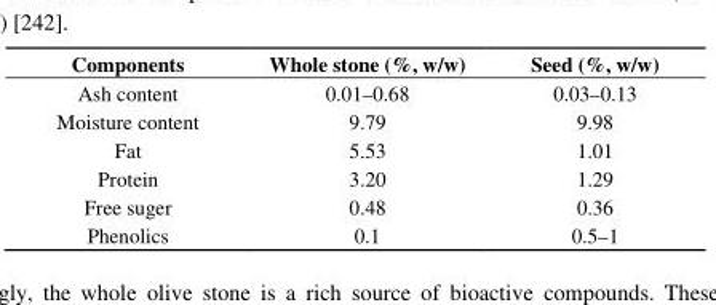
<table><thead><tr><td>Components</td><td>Whole stone (%, w/w)</td><td>Seed (%, w/w)</td></tr></thead><tbody><tr><td>Ash content</td><td>0.01–0.68</td><td>0.03–0.13</td></tr><tr><td>Moisture content</td><td>9.79</td><td>9.98</td></tr><tr><td>Fat</td><td>5.53</td><td>1.01</td></tr><tr><td>Protein</td><td>3.20</td><td>1.29</td></tr><tr><td>Free suger</td><td>0.48</td><td>0.36</td></tr><tr><td>Phenolics</td><td>0.1</td><td>0.5–1</td></tr></tbody></table>